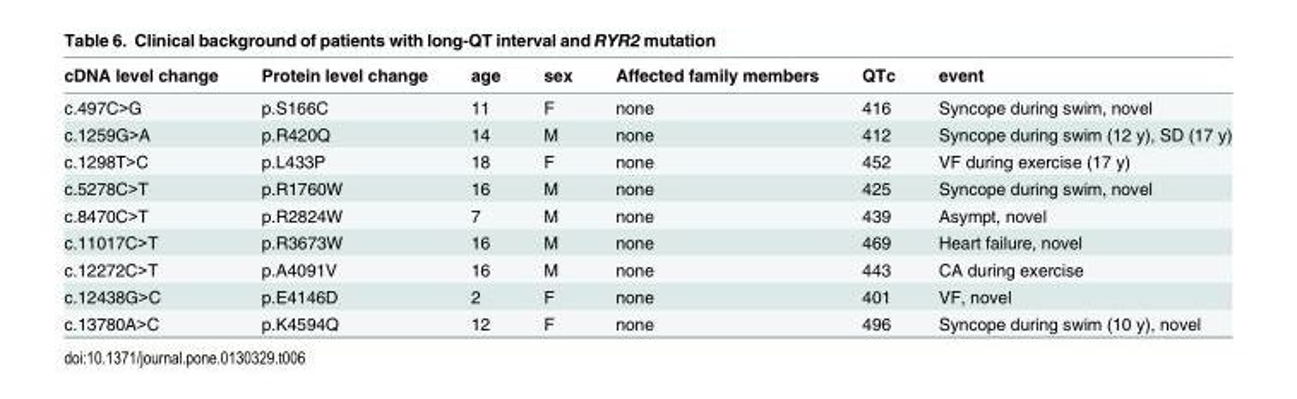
<table><thead><tr><td>cDNA level change</td><td>Protein level change</td><td>age</td><td>sex</td><td>Affected family members</td><td>QTc</td><td>event</td></tr></thead><tbody><tr><td>c.497C&gt;G</td><td>p.S166C</td><td>11</td><td>F</td><td>none</td><td>416</td><td>Syncope during swim, novel</td></tr><tr><td>c.1259G&gt;A</td><td>p.R420Q</td><td>14</td><td>M</td><td>none</td><td>412</td><td>Syncope during swim (12 y), SD (17 y)</td></tr><tr><td>c.1298T&gt;C</td><td>p.L433P</td><td>18</td><td>F</td><td>none</td><td>452</td><td>VF during exercise (17 y)</td></tr><tr><td>c.5278C&gt;T</td><td>p.R1760W</td><td>16</td><td>M</td><td>none</td><td>425</td><td>Syncope during swim, novel</td></tr><tr><td>c.8470C&gt;T</td><td>p.R2824W</td><td>7</td><td>M</td><td>none</td><td>439</td><td>Asympt, novel</td></tr><tr><td>c.11017C&gt;T</td><td>p.R3673W</td><td>16</td><td>M</td><td>none</td><td>469</td><td>Heart failure, novel</td></tr><tr><td>c.12272C&gt;T</td><td>p.A4091V</td><td>16</td><td>M</td><td>none</td><td>443</td><td>CA during exercise</td></tr><tr><td>c.12438G&gt;C</td><td>p.E4146D</td><td>2</td><td>F</td><td>none</td><td>401</td><td>VF, novel</td></tr><tr><td>c.13780A&gt;C</td><td>p.K4594Q</td><td>12</td><td>F</td><td>none</td><td>496</td><td>Syncope during swim (10 y), novel</td></tr></tbody></table>